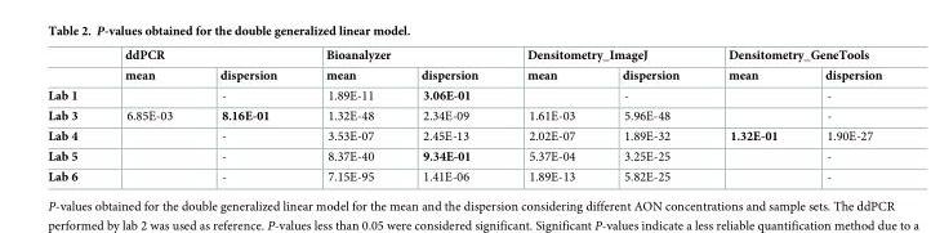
<table><thead><tr><td rowspan="2"></td><td colspan="2">ddPCR</td><td colspan="2">Bioanalyzer</td><td colspan="2">Densitometry_ImageJ</td><td colspan="2">Densitometry_GeneTools</td></tr><tr><td>mean</td><td>dispersion</td><td>mean</td><td>dispersion</td><td>mean</td><td>dispersion</td><td>mean</td><td>dispersion</td></tr></thead><tbody><tr><td>Lab 1</td><td></td><td>-</td><td>1.89E-11</td><td>3.06E-01</td><td></td><td>-</td><td></td><td>-</td></tr><tr><td>Lab 3</td><td>6.85E-03</td><td>8.16E-01</td><td>1.32E-48</td><td>2.34E-09</td><td>1.61E-03</td><td>5.96E-48</td><td></td><td>-</td></tr><tr><td>Lab 4</td><td></td><td>-</td><td>3.53E-07</td><td>2.45E-13</td><td>2.02E-07</td><td>1.89E-32</td><td>1.32E-01</td><td>1.90E-27</td></tr><tr><td>Lab 5</td><td></td><td>-</td><td>8.37E-40</td><td>9.34E-01</td><td>5.37E-04</td><td>3.25E-25</td><td></td><td>-</td></tr><tr><td>Lab 6</td><td></td><td>-</td><td>7.15E-95</td><td>1.41E-06</td><td>1.89E-13</td><td>5.82E-25</td><td></td><td>-</td></tr></tbody></table>